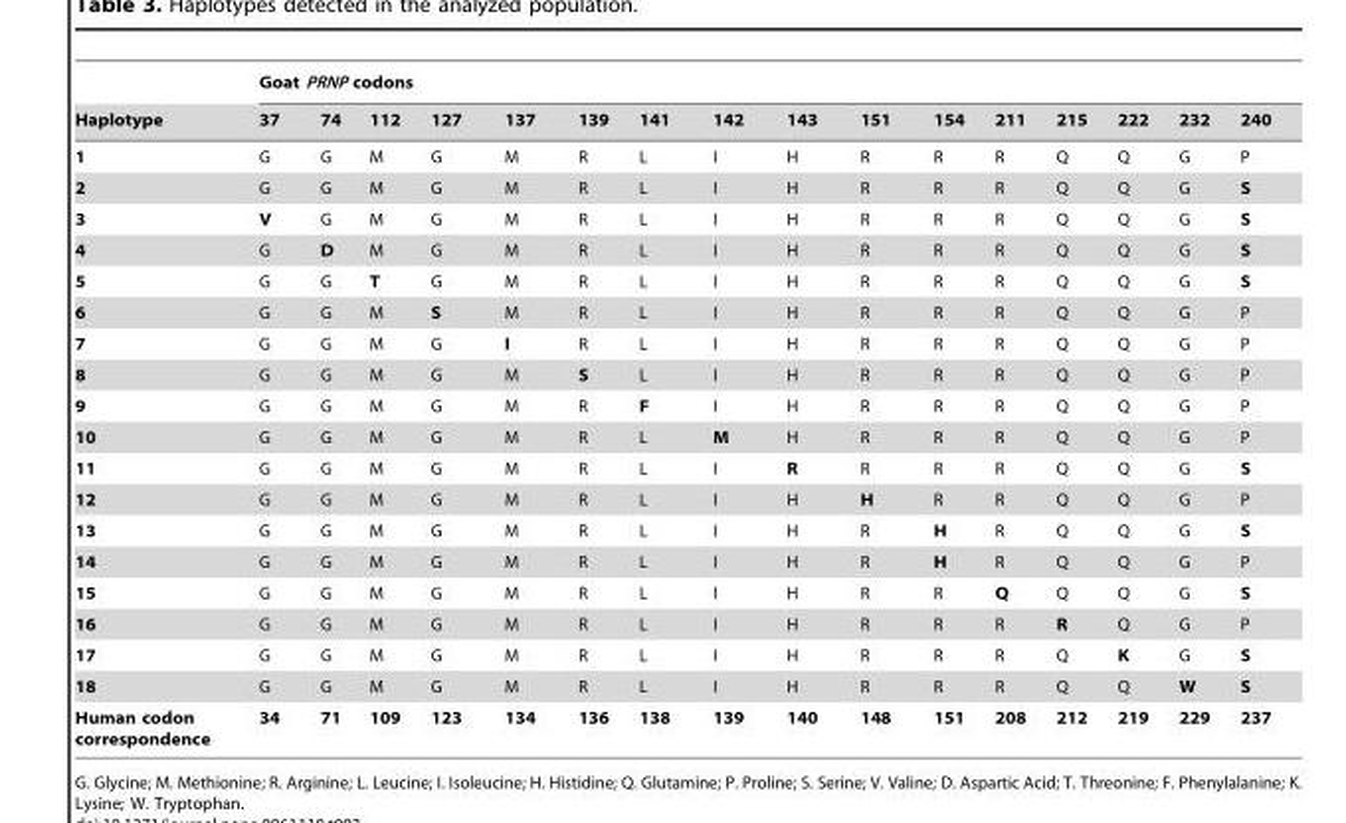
<table><thead><tr><td rowspan="2">Haplotype</td><td colspan="16">Goat PRNP codons</td></tr><tr><td>37</td><td>74</td><td>112</td><td>127</td><td>137</td><td>139</td><td>141</td><td>142</td><td>143</td><td>151</td><td>154</td><td>211</td><td>215</td><td>222</td><td>232</td><td>240</td></tr></thead><tbody><tr><td>1</td><td>G</td><td>G</td><td>M</td><td>G</td><td>M</td><td>R</td><td>L</td><td>I</td><td>H</td><td>R</td><td>R</td><td>R</td><td>Q</td><td>Q</td><td>G</td><td>P</td></tr><tr><td>2</td><td>G</td><td>G</td><td>M</td><td>G</td><td>M</td><td>R</td><td>L</td><td>I</td><td>H</td><td>R</td><td>R</td><td>R</td><td>Q</td><td>Q</td><td>G</td><td>S</td></tr><tr><td>3</td><td>V</td><td>G</td><td>M</td><td>G</td><td>M</td><td>R</td><td>L</td><td>I</td><td>H</td><td>R</td><td>R</td><td>R</td><td>Q</td><td>Q</td><td>G</td><td>S</td></tr><tr><td>4</td><td>G</td><td>D</td><td>M</td><td>G</td><td>M</td><td>R</td><td>L</td><td>I</td><td>H</td><td>R</td><td>R</td><td>R</td><td>Q</td><td>Q</td><td>G</td><td>S</td></tr><tr><td>5</td><td>G</td><td>G</td><td>T</td><td>G</td><td>M</td><td>R</td><td>L</td><td>I</td><td>H</td><td>R</td><td>R</td><td>R</td><td>Q</td><td>Q</td><td>G</td><td>S</td></tr><tr><td>6</td><td>G</td><td>G</td><td>M</td><td>S</td><td>M</td><td>R</td><td>L</td><td>I</td><td>H</td><td>R</td><td>R</td><td>R</td><td>Q</td><td>Q</td><td>G</td><td>P</td></tr><tr><td>7</td><td>G</td><td>G</td><td>M</td><td>G</td><td>I</td><td>R</td><td>L</td><td>I</td><td>H</td><td>R</td><td>R</td><td>R</td><td>Q</td><td>Q</td><td>G</td><td>P</td></tr><tr><td>8</td><td>G</td><td>G</td><td>M</td><td>G</td><td>M</td><td>S</td><td>L</td><td>I</td><td>H</td><td>R</td><td>R</td><td>R</td><td>Q</td><td>Q</td><td>G</td><td>P</td></tr><tr><td>9</td><td>G</td><td>G</td><td>M</td><td>G</td><td>M</td><td>R</td><td>F</td><td>I</td><td>H</td><td>R</td><td>R</td><td>R</td><td>Q</td><td>Q</td><td>G</td><td>P</td></tr><tr><td>10</td><td>G</td><td>G</td><td>M</td><td>G</td><td>M</td><td>R</td><td>L</td><td>M</td><td>H</td><td>R</td><td>R</td><td>R</td><td>Q</td><td>Q</td><td>G</td><td>P</td></tr><tr><td>11</td><td>G</td><td>G</td><td>M</td><td>G</td><td>M</td><td>R</td><td>L</td><td>I</td><td>R</td><td>R</td><td>R</td><td>R</td><td>Q</td><td>Q</td><td>G</td><td>S</td></tr><tr><td>12</td><td>G</td><td>G</td><td>M</td><td>G</td><td>M</td><td>R</td><td>L</td><td>I</td><td>H</td><td>H</td><td>R</td><td>R</td><td>Q</td><td>Q</td><td>G</td><td>P</td></tr><tr><td>13</td><td>G</td><td>G</td><td>M</td><td>G</td><td>M</td><td>R</td><td>L</td><td>I</td><td>H</td><td>R</td><td>H</td><td>R</td><td>Q</td><td>Q</td><td>G</td><td>S</td></tr><tr><td>14</td><td>G</td><td>G</td><td>M</td><td>G</td><td>M</td><td>R</td><td>L</td><td>I</td><td>H</td><td>R</td><td>H</td><td>R</td><td>Q</td><td>Q</td><td>G</td><td>P</td></tr><tr><td>15</td><td>G</td><td>G</td><td>M</td><td>G</td><td>M</td><td>R</td><td>L</td><td>I</td><td>H</td><td>R</td><td>R</td><td>Q</td><td>Q</td><td>Q</td><td>G</td><td>S</td></tr><tr><td>16</td><td>G</td><td>G</td><td>M</td><td>G</td><td>M</td><td>R</td><td>L</td><td>I</td><td>H</td><td>R</td><td>R</td><td>R</td><td>R</td><td>Q</td><td>G</td><td>P</td></tr><tr><td>17</td><td>G</td><td>G</td><td>M</td><td>G</td><td>M</td><td>R</td><td>L</td><td>I</td><td>H</td><td>R</td><td>R</td><td>R</td><td>Q</td><td>K</td><td>G</td><td>S</td></tr><tr><td>18</td><td>G</td><td>G</td><td>M</td><td>G</td><td>M</td><td>R</td><td>L</td><td>I</td><td>H</td><td>R</td><td>R</td><td>R</td><td>Q</td><td>Q</td><td>W</td><td>S</td></tr><tr><td>Human codon correspondence</td><td>34</td><td>71</td><td>109</td><td>123</td><td>134</td><td>136</td><td>138</td><td>139</td><td>140</td><td>148</td><td>151</td><td>208</td><td>212</td><td>219</td><td>229</td><td>237</td></tr></tbody></table>